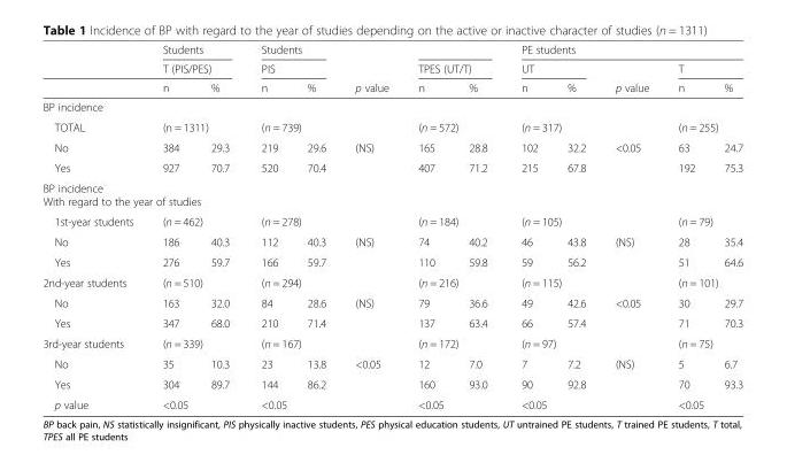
<table><thead><tr><td rowspan="3"></td><td rowspan="2" colspan="2">Students T (PIS/PES)</td><td rowspan="2" colspan="2">Students PIS</td><td rowspan="3">p value</td><td></td><td></td><td colspan="5">PE students</td></tr><tr><td colspan="2">TPES (UT/T)</td><td colspan="2">UT</td><td rowspan="2">p value</td><td colspan="2">T</td></tr><tr><td>n</td><td>%</td><td>n</td><td>%</td><td>n</td><td>%</td><td>n</td><td>%</td><td>n</td><td>%</td></tr></thead><tbody><tr><td colspan="13">BP incidence</td></tr><tr><td>TOTAL</td><td colspan="2">(n = 1311)</td><td colspan="2">(n = 739)</td><td></td><td colspan="2">(n = 572)</td><td colspan="2">(n = 317)</td><td></td><td colspan="2">(n = 255)</td></tr><tr><td>No</td><td>384</td><td>29.3</td><td>219</td><td>29.6</td><td rowspan="2">(NS)</td><td>165</td><td>28.8</td><td>102</td><td>32.2</td><td rowspan="2">&lt;0.05</td><td>63</td><td>24.7</td></tr><tr><td>Yes</td><td>927</td><td>70.7</td><td>520</td><td>70.4</td><td>407</td><td>71.2</td><td>215</td><td>67.8</td><td>192</td><td>75.3</td></tr><tr><td colspan="13">BP incidence With regard to the year of studies</td></tr><tr><td>1st-year students</td><td colspan="2">(n = 462)</td><td colspan="2">(n = 278)</td><td></td><td colspan="2">(n = 184)</td><td colspan="2">(n = 105)</td><td></td><td colspan="2">(n = 79)</td></tr><tr><td>No</td><td>186</td><td>40.3</td><td>112</td><td>40.3</td><td rowspan="2">(NS)</td><td>74</td><td>40.2</td><td>46</td><td>43.8</td><td rowspan="2">(NS)</td><td>28</td><td>35.4</td></tr><tr><td>Yes</td><td>276</td><td>59.7</td><td>166</td><td>59.7</td><td>110</td><td>59.8</td><td>59</td><td>56.2</td><td>51</td><td>64.6</td></tr><tr><td>2nd-year students</td><td colspan="2">(n = 510)</td><td colspan="2">(n = 294)</td><td></td><td colspan="2">(n = 216)</td><td colspan="2">(n = 115)</td><td></td><td colspan="2">(n = 101)</td></tr><tr><td>No</td><td>163</td><td>32.0</td><td>84</td><td>28.6</td><td rowspan="2">(NS)</td><td>79</td><td>36.6</td><td>49</td><td>42.6</td><td rowspan="2">&lt;0.05</td><td>30</td><td>29.7</td></tr><tr><td>Yes</td><td>347</td><td>68.0</td><td>210</td><td>71.4</td><td>137</td><td>63.4</td><td>66</td><td>57.4</td><td>71</td><td>70.3</td></tr><tr><td>3rd-year students</td><td colspan="2">(n = 339)</td><td colspan="2">(n = 167)</td><td></td><td colspan="2">(n = 172)</td><td colspan="2">(n = 97)</td><td></td><td colspan="2">(n = 75)</td></tr><tr><td>No</td><td>35</td><td>10.3</td><td>23</td><td>13.8</td><td rowspan="2">&lt;0.05</td><td>12</td><td>7.0</td><td>7</td><td>7.2</td><td rowspan="2">(NS)</td><td>5</td><td>6.7</td></tr><tr><td>Yes</td><td>304</td><td>89.7</td><td>144</td><td>86.2</td><td>160</td><td>93.0</td><td>90</td><td>92.8</td><td>70</td><td>93.3</td></tr><tr><td>p value</td><td colspan="2">&lt;0.05</td><td colspan="2">&lt;0.05</td><td></td><td colspan="2">&lt;0.05</td><td colspan="2">&lt;0.05</td><td></td><td colspan="2">&lt;0.05</td></tr></tbody></table>